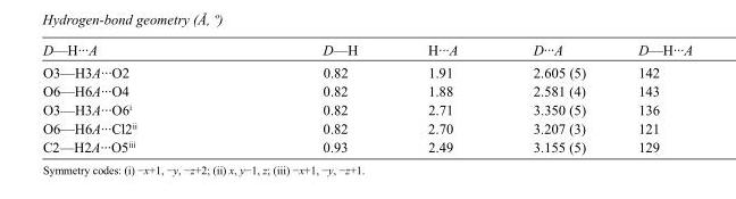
<table><tbody><tr><td>D—H···A</td><td>D—H</td><td>H···A</td><td>D···A</td><td>D—H···A</td></tr><tr><td>O3—H3A···O2</td><td>0.82</td><td>1.91</td><td>2.605 (5)</td><td>142</td></tr><tr><td>O6—H6A···O4</td><td>0.82</td><td>1.88</td><td>2.581 (4)</td><td>143</td></tr><tr><td>O3—H3A···O6<sup>i</sup></td><td>0.82</td><td>2.71</td><td>3.350 (5)</td><td>136</td></tr><tr><td>O6—H6A···Cl2<sup>ii</sup></td><td>0.82</td><td>2.70</td><td>3.207 (3)</td><td>121</td></tr><tr><td>C2—H2A···O5<sup>iii</sup></td><td>0.93</td><td>2.49</td><td>3.155 (5)</td><td>129</td></tr></tbody></table>